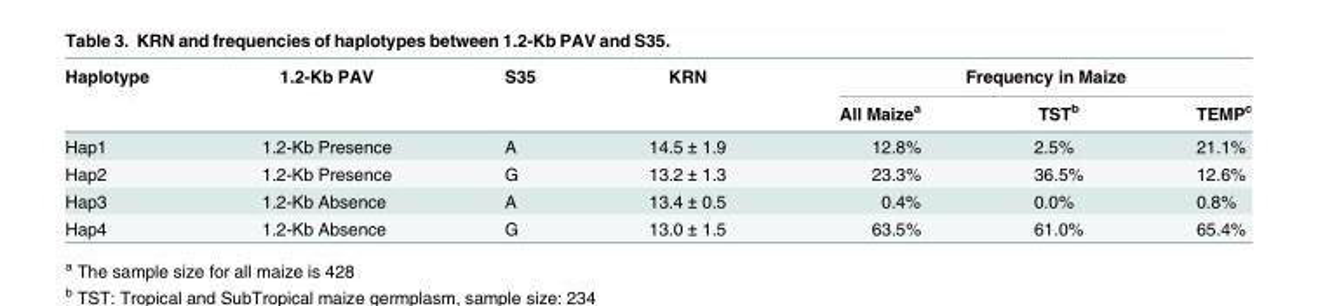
<table><thead><tr><td rowspan="2">Haplotype</td><td rowspan="2">1.2-Kb PAV</td><td rowspan="2">S35</td><td rowspan="2">KRN</td><td colspan="3">Frequency in Maize</td></tr><tr><td>All Maize<sup>a</sup></td><td>TST<sup>b</sup></td><td>TEMP<sup>c</sup></td></tr></thead><tbody><tr><td>Hap1</td><td>1.2-Kb Presence</td><td>A</td><td>14.5 ± 1.9</td><td>12.8%</td><td>2.5%</td><td>21.1%</td></tr><tr><td>Hap2</td><td>1.2-Kb Presence</td><td>G</td><td>13.2 ± 1.3</td><td>23.3%</td><td>36.5%</td><td>12.6%</td></tr><tr><td>Hap3</td><td>1.2-Kb Absence</td><td>A</td><td>13.4 ± 0.5</td><td>0.4%</td><td>0.0%</td><td>0.8%</td></tr><tr><td>Hap4</td><td>1.2-Kb Absence</td><td>G</td><td>13.0 ± 1.5</td><td>63.5%</td><td>61.0%</td><td>65.4%</td></tr></tbody></table>